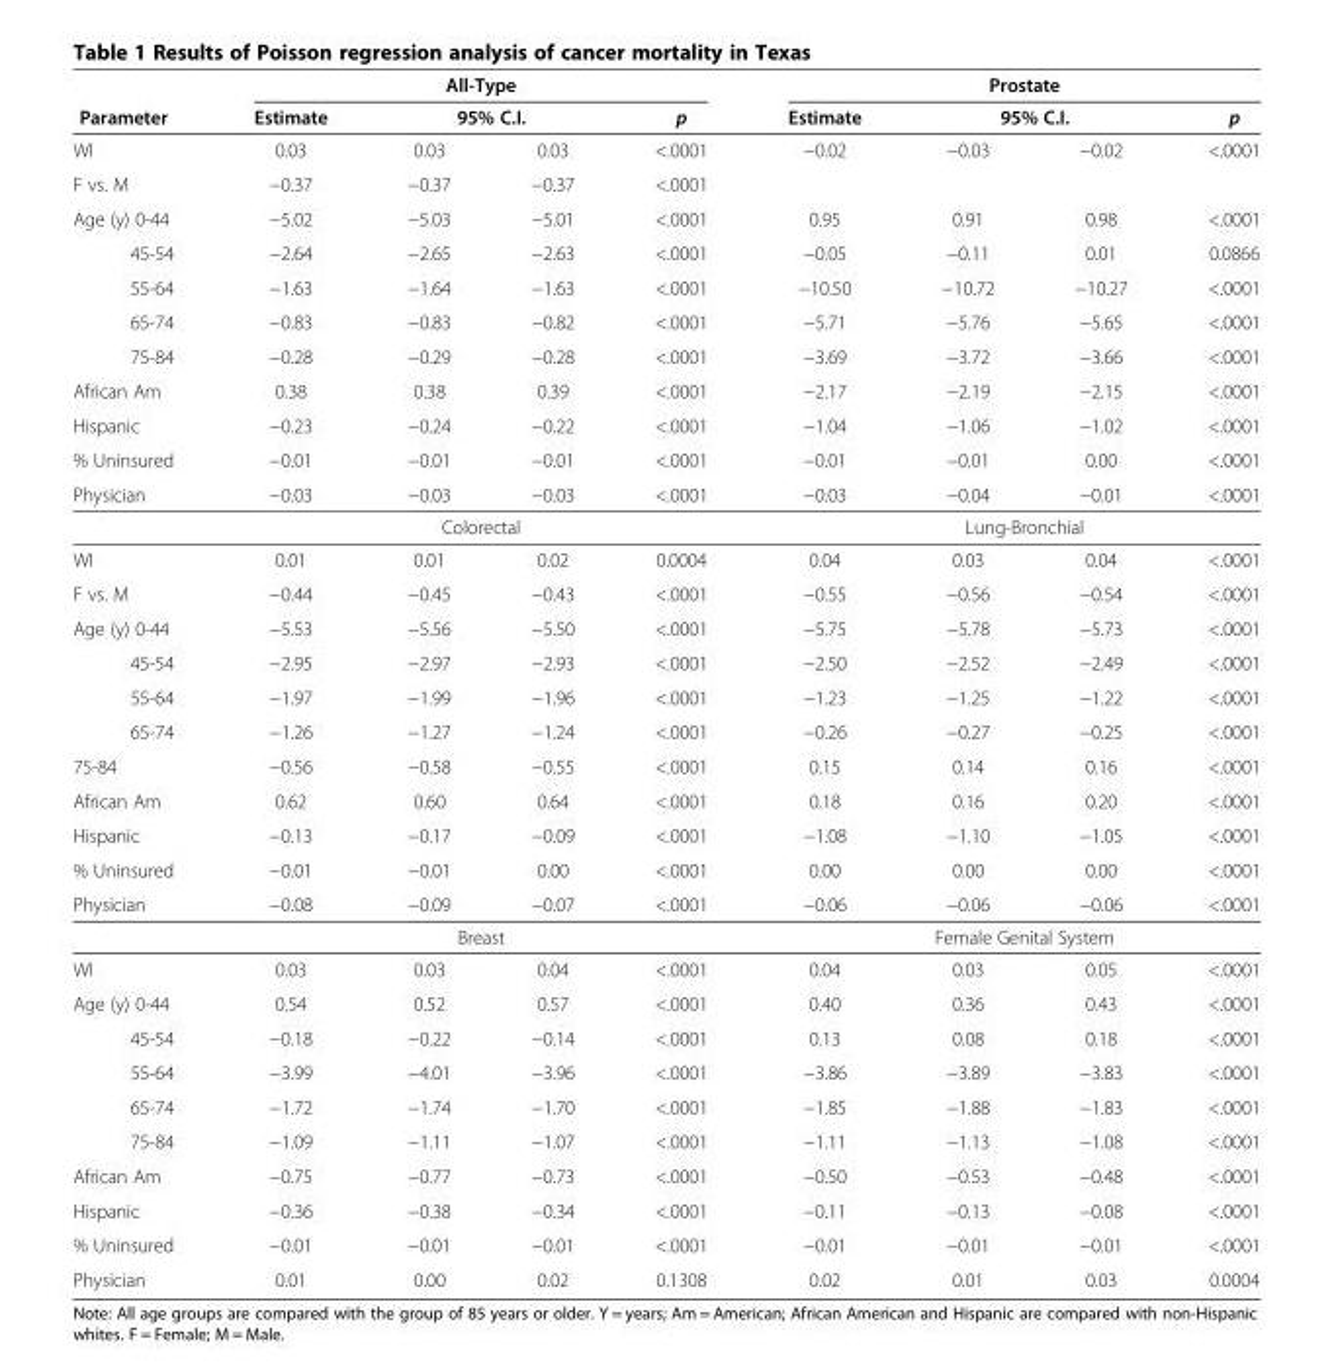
<table><thead><tr><td rowspan="3">Parameter WI</td><td colspan="4">All-Type</td><td colspan="4">Prostate</td></tr><tr><td rowspan="2">Estimate 0.03</td><td colspan="2">95% C.I.</td><td rowspan="2">p &lt;.0001</td><td rowspan="2">Estimate −0.02</td><td colspan="2">95% C.I.</td><td rowspan="2">p &lt;.0001</td></tr><tr><td>0.03</td><td>0.03</td><td>−0.03</td><td>−0.02</td></tr></thead><tbody><tr><td>F vs. M</td><td>−0.37</td><td>−0.37</td><td>−0.37</td><td>&lt;.0001</td><td></td><td></td><td></td><td></td></tr><tr><td>Age (y) 0-44</td><td>−5.02</td><td>−5.03</td><td>−5.01</td><td>&lt;.0001</td><td>0.95</td><td>0.91</td><td>0.98</td><td>&lt;.0001</td></tr><tr><td>45-54</td><td>−2.64</td><td>−2.65</td><td>−2.63</td><td>&lt;.0001</td><td>−0.05</td><td>−0.11</td><td>0.01</td><td>0.0866</td></tr><tr><td>55-64</td><td>−1.63</td><td>−1.64</td><td>−1.63</td><td>&lt;.0001</td><td>−10.50</td><td>−10.72</td><td>−10.27</td><td>&lt;.0001</td></tr><tr><td>65-74</td><td>−0.83</td><td>−0.83</td><td>−0.82</td><td>&lt;.0001</td><td>−5.71</td><td>−5.76</td><td>−5.65</td><td>&lt;.0001</td></tr><tr><td>75-84</td><td>−0.28</td><td>−0.29</td><td>−0.28</td><td>&lt;.0001</td><td>−3.69</td><td>−3.72</td><td>−3.66</td><td>&lt;.0001</td></tr><tr><td>African Am</td><td>0.38</td><td>0.38</td><td>0.39</td><td>&lt;.0001</td><td>−2.17</td><td>−2.19</td><td>−2.15</td><td>&lt;.0001</td></tr><tr><td>Hispanic</td><td>−0.23</td><td>−0.24</td><td>−0.22</td><td>&lt;.0001</td><td>−1.04</td><td>−1.06</td><td>−1.02</td><td>&lt;.0001</td></tr><tr><td>% Uninsured</td><td>−0.01</td><td>−0.01</td><td>−0.01</td><td>&lt;.0001</td><td>−0.01</td><td>−0.01</td><td>0.00</td><td>&lt;.0001</td></tr><tr><td rowspan="2">Physician</td><td>−0.03</td><td>−0.03</td><td>−0.03</td><td>&lt;.0001</td><td>−0.03</td><td>−0.04</td><td>−0.01</td><td>&lt;.0001</td></tr><tr><td colspan="4">Colorectal</td><td colspan="4">Lung-Bronchial</td></tr><tr><td>WI</td><td>0.01</td><td>0.01</td><td>0.02</td><td>0.0004</td><td>0.04</td><td>0.03</td><td>0.04</td><td>&lt;.0001</td></tr><tr><td>F vs. M</td><td>−0.44</td><td>−0.45</td><td>−0.43</td><td>&lt;.0001</td><td>−0.55</td><td>−0.56</td><td>−0.54</td><td>&lt;.0001</td></tr><tr><td>Age (y) 0-44</td><td>−5.53</td><td>−5.56</td><td>−5.50</td><td>&lt;.0001</td><td>−5.75</td><td>−5.78</td><td>−5.73</td><td>&lt;.0001</td></tr><tr><td>45-54</td><td>−2.95</td><td>−2.97</td><td>−2.93</td><td>&lt;.0001</td><td>−2.50</td><td>−2.52</td><td>−2.49</td><td>&lt;.0001</td></tr><tr><td>55-64</td><td>−1.97</td><td>−1.99</td><td>−1.96</td><td>&lt;.0001</td><td>−1.23</td><td>−1.25</td><td>−1.22</td><td>&lt;.0001</td></tr><tr><td>65-74</td><td>−1.26</td><td>−1.27</td><td>−1.24</td><td>&lt;.0001</td><td>−0.26</td><td>−0.27</td><td>−0.25</td><td>&lt;.0001</td></tr><tr><td>75-84</td><td>−0.56</td><td>−0.58</td><td>−0.55</td><td>&lt;.0001</td><td>0.15</td><td>0.14</td><td>0.16</td><td>&lt;.0001</td></tr><tr><td>African Am</td><td>0.62</td><td>0.60</td><td>0.64</td><td>&lt;.0001</td><td>0.18</td><td>0.16</td><td>0.20</td><td>&lt;.0001</td></tr><tr><td>Hispanic</td><td>−0.13</td><td>−0.17</td><td>−0.09</td><td>&lt;.0001</td><td>−1.08</td><td>−1.10</td><td>−1.05</td><td>&lt;.0001</td></tr><tr><td>% Uninsured</td><td>−0.01</td><td>−0.01</td><td>0.00</td><td>&lt;.0001</td><td>0.00</td><td>0.00</td><td>0.00</td><td>&lt;.0001</td></tr><tr><td rowspan="2">Physician</td><td>−0.08</td><td>−0.09</td><td>−0.07</td><td>&lt;.0001</td><td>−0.06</td><td>−0.06</td><td>−0.06</td><td>&lt;.0001</td></tr><tr><td colspan="4">Breast</td><td colspan="4">Female Genital System</td></tr><tr><td>WI</td><td>0.03</td><td>0.03</td><td>0.04</td><td>&lt;.0001</td><td>0.04</td><td>0.03</td><td>0.05</td><td>&lt;.0001</td></tr><tr><td>Age (y) 0-44</td><td>0.54</td><td>0.52</td><td>0.57</td><td>&lt;.0001</td><td>0.40</td><td>0.36</td><td>0.43</td><td>&lt;.0001</td></tr><tr><td>45-54</td><td>−0.18</td><td>−0.22</td><td>−0.14</td><td>&lt;.0001</td><td>0.13</td><td>0.08</td><td>0.18</td><td>&lt;.0001</td></tr><tr><td>55-64</td><td>−3.99</td><td>−4.01</td><td>−3.96</td><td>&lt;.0001</td><td>−3.86</td><td>−3.89</td><td>−3.83</td><td>&lt;.0001</td></tr><tr><td>65-74</td><td>−1.72</td><td>−1.74</td><td>−1.70</td><td>&lt;.0001</td><td>−1.85</td><td>−1.88</td><td>−1.83</td><td>&lt;.0001</td></tr><tr><td>75-84</td><td>−1.09</td><td>−1.11</td><td>−1.07</td><td>&lt;.0001</td><td>−1.11</td><td>−1.13</td><td>−1.08</td><td>&lt;.0001</td></tr><tr><td>African Am</td><td>−0.75</td><td>−0.77</td><td>−0.73</td><td>&lt;.0001</td><td>−0.50</td><td>−0.53</td><td>−0.48</td><td>&lt;.0001</td></tr><tr><td>Hispanic</td><td>−0.36</td><td>−0.38</td><td>−0.34</td><td>&lt;.0001</td><td>−0.11</td><td>−0.13</td><td>−0.08</td><td>&lt;.0001</td></tr><tr><td>% Uninsured</td><td>−0.01</td><td>−0.01</td><td>−0.01</td><td>&lt;.0001</td><td>−0.01</td><td>−0.01</td><td>−0.01</td><td>&lt;.0001</td></tr><tr><td>Physician</td><td>0.01</td><td>0.00</td><td>0.02</td><td>0.1308</td><td>0.02</td><td>0.01</td><td>0.03</td><td>0.0004</td></tr></tbody></table>